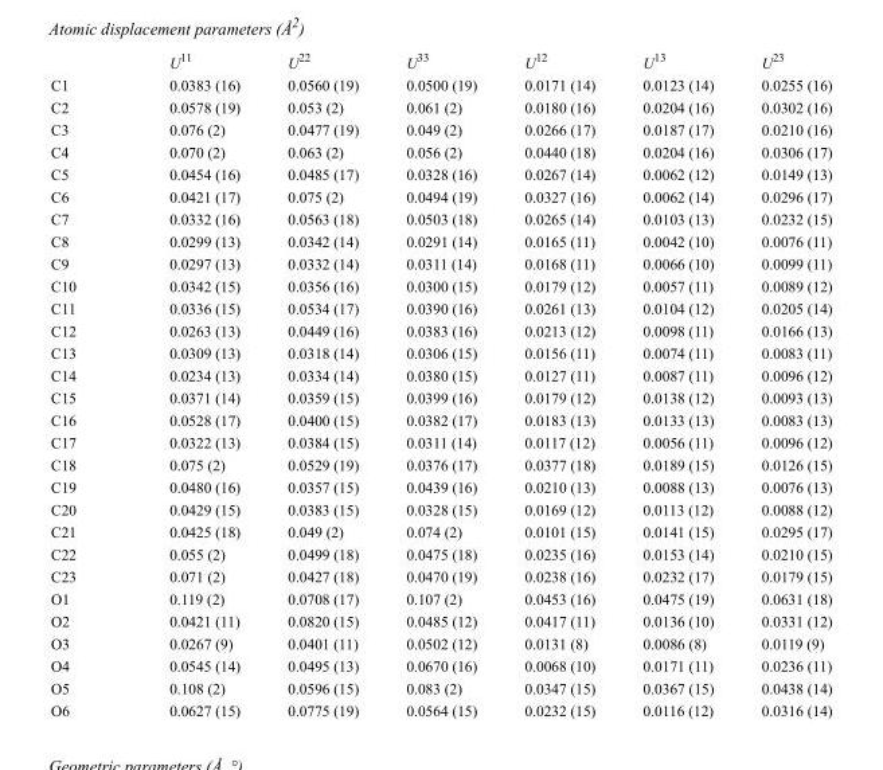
<table><thead><tr><td></td><td>U<sup>11</sup></td><td>U<sup>22</sup></td><td>U<sup>33</sup></td><td>U<sup>12</sup></td><td>U<sup>13</sup></td><td>U<sup>23</sup></td></tr></thead><tbody><tr><td>C1</td><td>0.0383 (16)</td><td>0.0560 (19)</td><td>0.0500 (19)</td><td>0.0171 (14)</td><td>0.0123 (14)</td><td>0.0255 (16)</td></tr><tr><td>C2</td><td>0.0578 (19)</td><td>0.053 (2)</td><td>0.061 (2)</td><td>0.0180 (16)</td><td>0.0204 (16)</td><td>0.0302 (16)</td></tr><tr><td>C3</td><td>0.076 (2)</td><td>0.0477 (19)</td><td>0.049 (2)</td><td>0.0266 (17)</td><td>0.0187 (17)</td><td>0.0210 (16)</td></tr><tr><td>C4</td><td>0.070 (2)</td><td>0.063 (2)</td><td>0.056 (2)</td><td>0.0440 (18)</td><td>0.0204 (16)</td><td>0.0306 (17)</td></tr><tr><td>C5</td><td>0.0454 (16)</td><td>0.0485 (17)</td><td>0.0328 (16)</td><td>0.0267 (14)</td><td>0.0062 (12)</td><td>0.0149 (13)</td></tr><tr><td>C6</td><td>0.0421 (17)</td><td>0.075 (2)</td><td>0.0494 (19)</td><td>0.0327 (16)</td><td>0.0062 (14)</td><td>0.0296 (17)</td></tr><tr><td>C7</td><td>0.0332 (16)</td><td>0.0563 (18)</td><td>0.0503 (18)</td><td>0.0265 (14)</td><td>0.0103 (13)</td><td>0.0232 (15)</td></tr><tr><td>C8</td><td>0.0299 (13)</td><td>0.0342 (14)</td><td>0.0291 (14)</td><td>0.0165 (11)</td><td>0.0042 (10)</td><td>0.0076 (11)</td></tr><tr><td>C9</td><td>0.0297 (13)</td><td>0.0332 (14)</td><td>0.0311 (14)</td><td>0.0168 (11)</td><td>0.0066 (10)</td><td>0.0099 (11)</td></tr><tr><td>C10</td><td>0.0342 (15)</td><td>0.0356 (16)</td><td>0.0300 (15)</td><td>0.0179 (12)</td><td>0.0057 (11)</td><td>0.0089 (12)</td></tr><tr><td>C11</td><td>0.0336 (15)</td><td>0.0534 (17)</td><td>0.0390 (16)</td><td>0.0261 (13)</td><td>0.0104 (12)</td><td>0.0205 (14)</td></tr><tr><td>C12</td><td>0.0263 (13)</td><td>0.0449 (16)</td><td>0.0383 (16)</td><td>0.0213 (12)</td><td>0.0098 (11)</td><td>0.0166 (13)</td></tr><tr><td>C13</td><td>0.0309 (13)</td><td>0.0318 (14)</td><td>0.0306 (15)</td><td>0.0156 (11)</td><td>0.0074 (11)</td><td>0.0083 (11)</td></tr><tr><td>C14</td><td>0.0234 (13)</td><td>0.0334 (14)</td><td>0.0380 (15)</td><td>0.0127 (11)</td><td>0.0087 (11)</td><td>0.0096 (12)</td></tr><tr><td>C15</td><td>0.0371 (14)</td><td>0.0359 (15)</td><td>0.0399 (16)</td><td>0.0179 (12)</td><td>0.0138 (12)</td><td>0.0093 (13)</td></tr><tr><td>C16</td><td>0.0528 (17)</td><td>0.0400 (15)</td><td>0.0382 (17)</td><td>0.0183 (13)</td><td>0.0133 (13)</td><td>0.0083 (13)</td></tr><tr><td>C17</td><td>0.0322 (13)</td><td>0.0384 (15)</td><td>0.0311 (14)</td><td>0.0117 (12)</td><td>0.0056 (11)</td><td>0.0096 (12)</td></tr><tr><td>C18</td><td>0.075 (2)</td><td>0.0529 (19)</td><td>0.0376 (17)</td><td>0.0377 (18)</td><td>0.0189 (15)</td><td>0.0126 (15)</td></tr><tr><td>C19</td><td>0.0480 (16)</td><td>0.0357 (15)</td><td>0.0439 (16)</td><td>0.0210 (13)</td><td>0.0088 (13)</td><td>0.0076 (13)</td></tr><tr><td>C20</td><td>0.0429 (15)</td><td>0.0383 (15)</td><td>0.0328 (15)</td><td>0.0169 (12)</td><td>0.0113 (12)</td><td>0.0088 (12)</td></tr><tr><td>C21</td><td>0.0425 (18)</td><td>0.049 (2)</td><td>0.074 (2)</td><td>0.0101 (15)</td><td>0.0141 (15)</td><td>0.0295 (17)</td></tr><tr><td>C22</td><td>0.055 (2)</td><td>0.0499 (18)</td><td>0.0475 (18)</td><td>0.0235 (16)</td><td>0.0153 (14)</td><td>0.0210 (15)</td></tr><tr><td>C23</td><td>0.071 (2)</td><td>0.0427 (18)</td><td>0.0470 (19)</td><td>0.0238 (16)</td><td>0.0232 (17)</td><td>0.0179 (15)</td></tr><tr><td>O1</td><td>0.119 (2)</td><td>0.0708 (17)</td><td>0.107 (2)</td><td>0.0453 (16)</td><td>0.0475 (19)</td><td>0.0631 (18)</td></tr><tr><td>O2</td><td>0.0421 (11)</td><td>0.0820 (15)</td><td>0.0485 (12)</td><td>0.0417 (11)</td><td>0.0136 (10)</td><td>0.0331 (12)</td></tr><tr><td>O3</td><td>0.0267 (9)</td><td>0.0401 (11)</td><td>0.0502 (12)</td><td>0.0131 (8)</td><td>0.0086 (8)</td><td>0.0119 (9)</td></tr><tr><td>O4</td><td>0.0545 (14)</td><td>0.0495 (13)</td><td>0.0670 (16)</td><td>0.0068 (10)</td><td>0.0171 (11)</td><td>0.0236 (11)</td></tr><tr><td>O5</td><td>0.108 (2)</td><td>0.0596 (15)</td><td>0.083 (2)</td><td>0.0347 (15)</td><td>0.0367 (15)</td><td>0.0438 (14)</td></tr><tr><td>O6</td><td>0.0627 (15)</td><td>0.0775 (19)</td><td>0.0564 (15)</td><td>0.0232 (15)</td><td>0.0116 (12)</td><td>0.0316 (14)</td></tr></tbody></table>